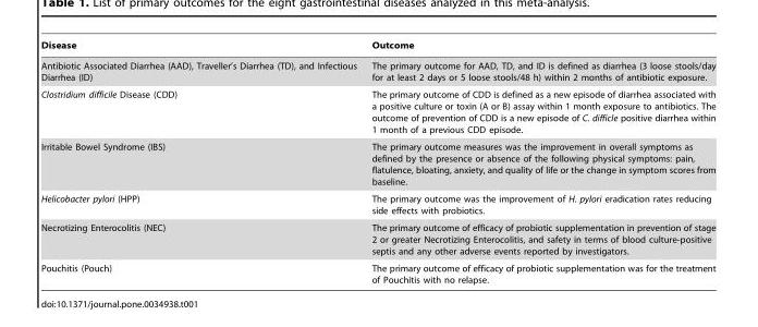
<table><thead><tr><td>Disease</td><td>Outcome</td></tr></thead><tbody><tr><td>Antibiotic Associated Diarrhea (AAD), Traveller’s Diarrhea (TD), and Infectious Diarrhea (ID)</td><td>The primary outcome for AAD, TD, and ID is defined as diarrhea (3 loose stools/day for at least 2 days or 5 loose stools/48 h) within 2 months of antibiotic exposure.</td></tr><tr><td>Clostridium difficile Disease (CDD)</td><td>The primary outcome of CDD is defined as a new episode of diarrhea associated with a positive culture or toxin (A or B) assay within 1 month exposure to antibiotics. The outcome of prevention of CDD is a new episode of C. difficle positive diarrhea within 1 month of a previous CDD episode.</td></tr><tr><td>Irritable Bowel Syndrome (IBS)</td><td>The primary outcome measures was the improvement in overall symptoms as defined by the presence or absence of the following physical symptoms: pain, flatulence, bloating, anxiety, and quality of life or the change in symptom scores from baseline.</td></tr><tr><td>Helicobacter pylori (HPP)</td><td>The primary outcome was the improvement of H. pylori eradication rates reducing side effects with probiotics.</td></tr><tr><td>Necrotizing Enterocolitis (NEC)</td><td>The primary outcome of efficacy of probiotic supplementation in prevention of stage 2 or greater Necrotizing Enterocolitis, and safety in terms of blood culture-positive septis and any other adverse events reported by investigators.</td></tr><tr><td>Pouchitis (Pouch)</td><td>The primary outcome of efficacy of probiotic supplementation was for the treatment of Pouchitis with no relapse.</td></tr></tbody></table>